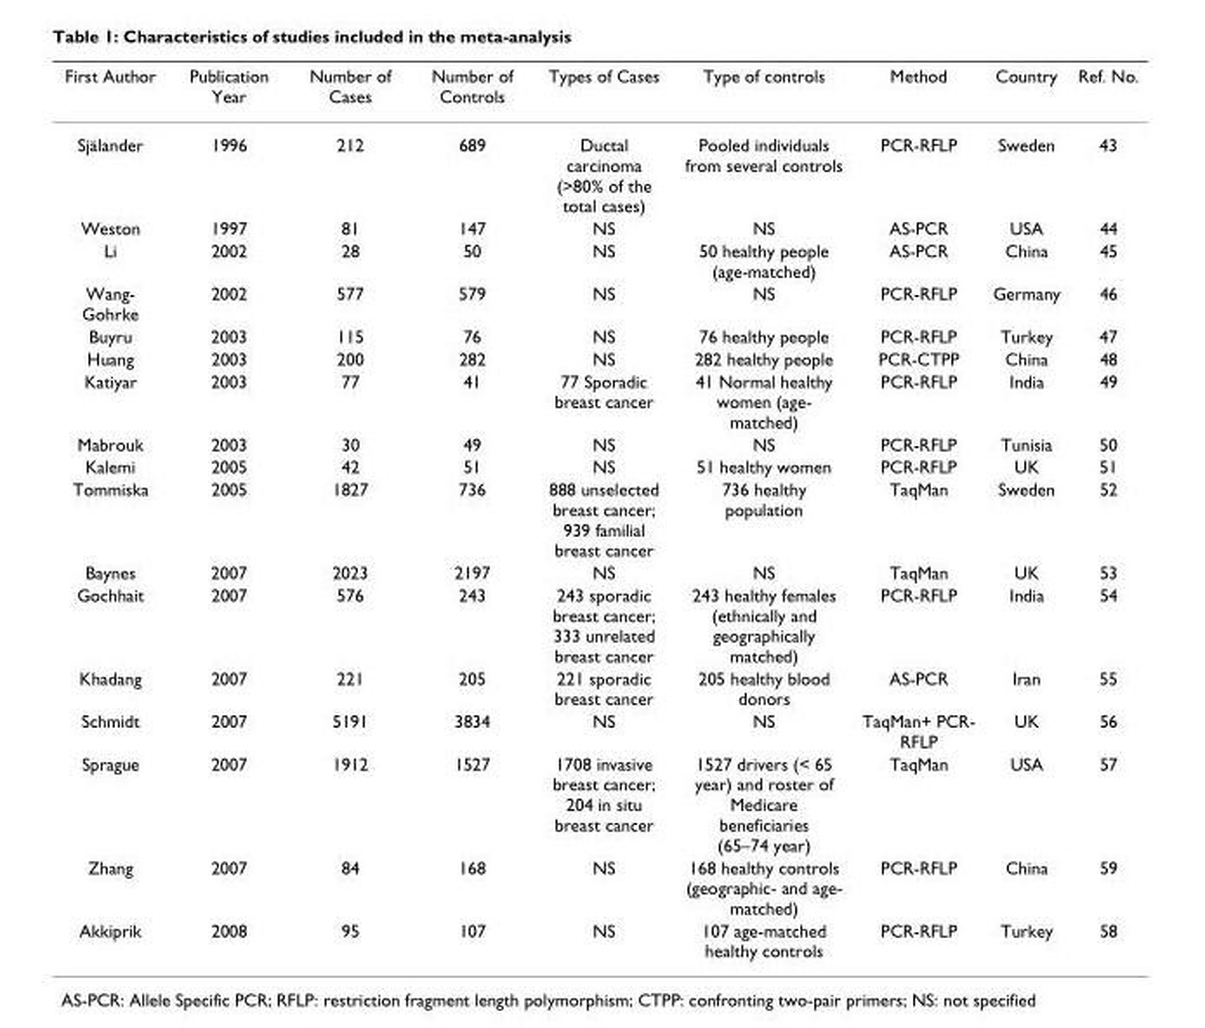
<table><thead><tr><td>First Author</td><td>Publication Year</td><td>Number of Cases</td><td>Number of Controls</td><td>Types of Cases</td><td>Type of controls</td><td>Method</td><td>Country</td><td>Ref. No.</td></tr></thead><tbody><tr><td>Själander</td><td>1996</td><td>212</td><td>689</td><td>Ductal carcinoma (&gt;80% of the total cases)</td><td>Pooled individuals from several controls</td><td>PCR-RFLP</td><td>Sweden</td><td>43</td></tr><tr><td>Weston</td><td>1997</td><td>81</td><td>147</td><td>NS</td><td>NS</td><td>AS-PCR</td><td>USA</td><td>44</td></tr><tr><td>Li</td><td>2002</td><td>28</td><td>50</td><td>NS</td><td>50 healthy people (age-matched)</td><td>AS-PCR</td><td>China</td><td>45</td></tr><tr><td>Wang- Gohrke</td><td>2002</td><td>577</td><td>579</td><td>NS</td><td>NS</td><td>PCR-RFLP</td><td>Germany</td><td>46</td></tr><tr><td>Buyru</td><td>2003</td><td>115</td><td>76</td><td>NS</td><td>76 healthy people</td><td>PCR-RFLP</td><td>Turkey</td><td>47</td></tr><tr><td>Huang</td><td>2003</td><td>200</td><td>282</td><td>NS</td><td>282 healthy people</td><td>PCR-CTPP</td><td>China</td><td>48</td></tr><tr><td>Katiyar</td><td>2003</td><td>77</td><td>41</td><td>77 Sporadic breast cancer</td><td>41 Normal healthy women (age- matched)</td><td>PCR-RFLP</td><td>India</td><td>49</td></tr><tr><td>Mabrouk</td><td>2003</td><td>30</td><td>49</td><td>NS</td><td>NS</td><td>PCR-RFLP</td><td>Tunisia</td><td>50</td></tr><tr><td>Kalemi</td><td>2005</td><td>42</td><td>51</td><td>NS</td><td>51 healthy women</td><td>PCR-RFLP</td><td>UK</td><td>51</td></tr><tr><td>Tommiska</td><td>2005</td><td>1827</td><td>736</td><td>888 unselected breast cancer; 939 familial breast cancer</td><td>736 healthy population</td><td>TaqMan</td><td>Sweden</td><td>52</td></tr><tr><td>Baynes</td><td>2007</td><td>2023</td><td>2197</td><td>NS</td><td>NS</td><td>TaqMan</td><td>UK</td><td>53</td></tr><tr><td>Gochhait</td><td>2007</td><td>576</td><td>243</td><td>243 sporadic breast cancer; 333 unrelated breast cancer</td><td>243 healthy females (ethnically and geographically matched)</td><td>PCR-RFLP</td><td>India</td><td>54</td></tr><tr><td>Khadang</td><td>2007</td><td>221</td><td>205</td><td>221 sporadic breast cancer</td><td>205 healthy blood donors</td><td>AS-PCR</td><td>Iran</td><td>55</td></tr><tr><td>Schmidt</td><td>2007</td><td>5191</td><td>3834</td><td>NS</td><td>NS</td><td>TaqMan+ PCR- RFLP</td><td>UK</td><td>56</td></tr><tr><td>Sprague</td><td>2007</td><td>1912</td><td>1527</td><td>1708 invasive breast cancer; 204 in situ breast cancer</td><td>1527 drivers (&lt; 65 year) and roster of Medicare beneficiaries (65–74 year)</td><td>TaqMan</td><td>USA</td><td>57</td></tr><tr><td>Zhang</td><td>2007</td><td>84</td><td>168</td><td>NS</td><td>168 healthy controls (geographic- and age- matched)</td><td>PCR-RFLP</td><td>China</td><td>59</td></tr><tr><td>Akkiprik</td><td>2008</td><td>95</td><td>107</td><td>NS</td><td>107 age-matched healthy controls</td><td>PCR-RFLP</td><td>Turkey</td><td>58</td></tr></tbody></table>